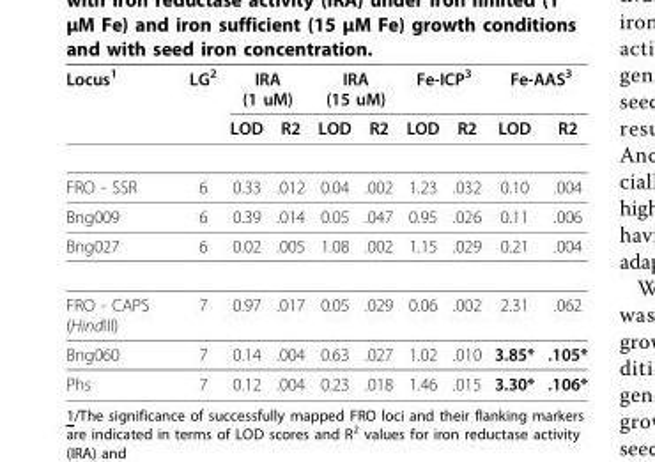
<table><thead><tr><td rowspan="2">Locus<sup>1</sup></td><td rowspan="2">LG<sup>2</sup></td><td colspan="2">IRA (1 uM)</td><td colspan="2">IRA (15 uM)</td><td colspan="2">Fe-ICP<sup>3</sup></td><td colspan="2">Fe-AAS<sup>3</sup></td></tr><tr><td>LOD</td><td>R2</td><td>LOD</td><td>R2</td><td>LOD</td><td>R2</td><td>LOD</td><td>R2</td></tr></thead><tbody><tr><td>FRO - SSR</td><td>6</td><td>0.33</td><td>.012</td><td>0.04</td><td>.002</td><td>1.23</td><td>.032</td><td>0.10</td><td>.004</td></tr><tr><td>Bng009</td><td>6</td><td>0.39</td><td>.014</td><td>0.05</td><td>.047</td><td>0.95</td><td>.026</td><td>0.11</td><td>.006</td></tr><tr><td>Bng027</td><td>6</td><td>0.02</td><td>.005</td><td>1.08</td><td>.002</td><td>1.15</td><td>.029</td><td>0.21</td><td>.004</td></tr><tr><td>FRO - CAPS (HindIII)</td><td>7</td><td>0.97</td><td>.017</td><td>0.05</td><td>.029</td><td>0.06</td><td>.002</td><td>2.31</td><td>.062</td></tr><tr><td>Bng060</td><td>7</td><td>0.14</td><td>.004</td><td>0.63</td><td>.027</td><td>1.02</td><td>.010</td><td>3.85*</td><td>.105*</td></tr><tr><td>Phs</td><td>7</td><td>0.12</td><td>.004</td><td>0.23</td><td>.018</td><td>1.46</td><td>.015</td><td>3.30*</td><td>.106*</td></tr></tbody></table>